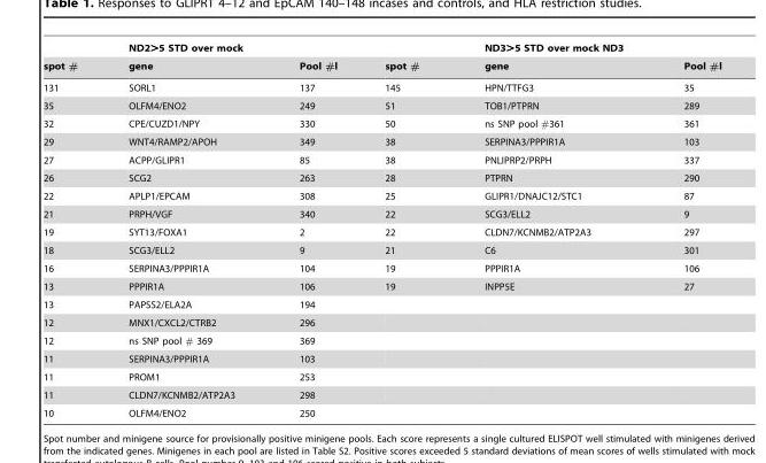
<table><thead><tr><td rowspan="2">spot #</td><td rowspan="2">ND2&gt;5 STD over mock gene</td><td rowspan="2">Pool #l</td><td rowspan="2">spot #</td><td rowspan="2">ND3&gt;5 STD over mock ND3 gene</td><td rowspan="2">Pool #l</td></tr><tr></tr></thead><tbody><tr><td>131</td><td>SORL1</td><td>137</td><td>145</td><td>HPN/TTFG3</td><td>35</td></tr><tr><td>35</td><td>OLFM4/ENO2</td><td>249</td><td>51</td><td>TOB1/PTPRN</td><td>289</td></tr><tr><td>32</td><td>CPE/CUZD1/NPY</td><td>330</td><td>50</td><td>ns SNP pool #361</td><td>361</td></tr><tr><td>29</td><td>WNT4/RAMP2/APOH</td><td>349</td><td>38</td><td>SERPINA3/PPPIR1A</td><td>103</td></tr><tr><td>27</td><td>ACPP/GLIPR1</td><td>85</td><td>38</td><td>PNLIPRP2/PRPH</td><td>337</td></tr><tr><td>26</td><td>SCG2</td><td>263</td><td>28</td><td>PTPRN</td><td>290</td></tr><tr><td>22</td><td>APLP1/EPCAM</td><td>308</td><td>25</td><td>GLIPR1/DNAJC12/STC1</td><td>87</td></tr><tr><td>21</td><td>PRPH/VGF</td><td>340</td><td>22</td><td>SCG3/ELL2</td><td>9</td></tr><tr><td>19</td><td>SYT13/FOXA1</td><td>2</td><td>22</td><td>CLDN7/KCNMB2/ATP2A3</td><td>297</td></tr><tr><td>18</td><td>SCG3/ELL2</td><td>9</td><td>21</td><td>C6</td><td>301</td></tr><tr><td>16</td><td>SERPINA3/PPPIR1A</td><td>104</td><td>19</td><td>PPPIR1A</td><td>106</td></tr><tr><td>13</td><td>PPPIR1A</td><td>106</td><td>19</td><td>INPP5E</td><td>27</td></tr><tr><td>13</td><td>PAPSS2/ELA2A</td><td>194</td><td></td><td></td><td></td></tr><tr><td>12</td><td>MNX1/CXCL2/CTRB2</td><td>296</td><td></td><td></td><td></td></tr><tr><td>12</td><td>ns SNP pool # 369</td><td>369</td><td></td><td></td><td></td></tr><tr><td>11</td><td>SERPINA3/PPPIR1A</td><td>103</td><td></td><td></td><td></td></tr><tr><td>11</td><td>PROM1</td><td>253</td><td></td><td></td><td></td></tr><tr><td>11</td><td>CLDN7/KCNMB2/ATP2A3</td><td>298</td><td></td><td></td><td></td></tr><tr><td>10</td><td>OLFM4/ENO2</td><td>250</td><td></td><td></td><td></td></tr></tbody></table>